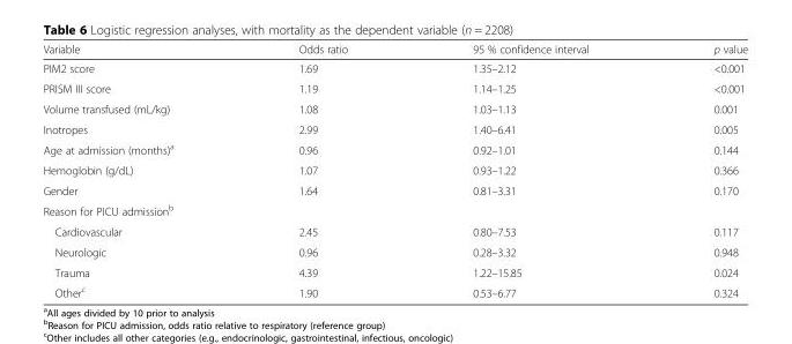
<table><thead><tr><td>Variable</td><td>Odds ratio</td><td>95 % confidence interval</td><td>p value</td></tr></thead><tbody><tr><td>PIM2 score</td><td>1.69</td><td>1.35–2.12</td><td>&lt;0.001</td></tr><tr><td>PRISM III score</td><td>1.19</td><td>1.14–1.25</td><td>&lt;0.001</td></tr><tr><td>Volume transfused (mL/kg)</td><td>1.08</td><td>1.03–1.13</td><td>0.001</td></tr><tr><td>Inotropes</td><td>2.99</td><td>1.40–6.41</td><td>0.005</td></tr><tr><td>Age at admission (months)<sup>a</sup></td><td>0.96</td><td>0.92–1.01</td><td>0.144</td></tr><tr><td>Hemoglobin (g/dL)</td><td>1.07</td><td>0.93–1.22</td><td>0.366</td></tr><tr><td>Gender</td><td>1.64</td><td>0.81–3.31</td><td>0.170</td></tr><tr><td colspan="4">Reason for PICU admission<sup>b</sup></td></tr><tr><td>Cardiovascular</td><td>2.45</td><td>0.80–7.53</td><td>0.117</td></tr><tr><td>Neurologic</td><td>0.96</td><td>0.28–3.32</td><td>0.948</td></tr><tr><td>Trauma</td><td>4.39</td><td>1.22–15.85</td><td>0.024</td></tr><tr><td>Other<sup>c</sup></td><td>1.90</td><td>0.53–6.77</td><td>0.324</td></tr></tbody></table>